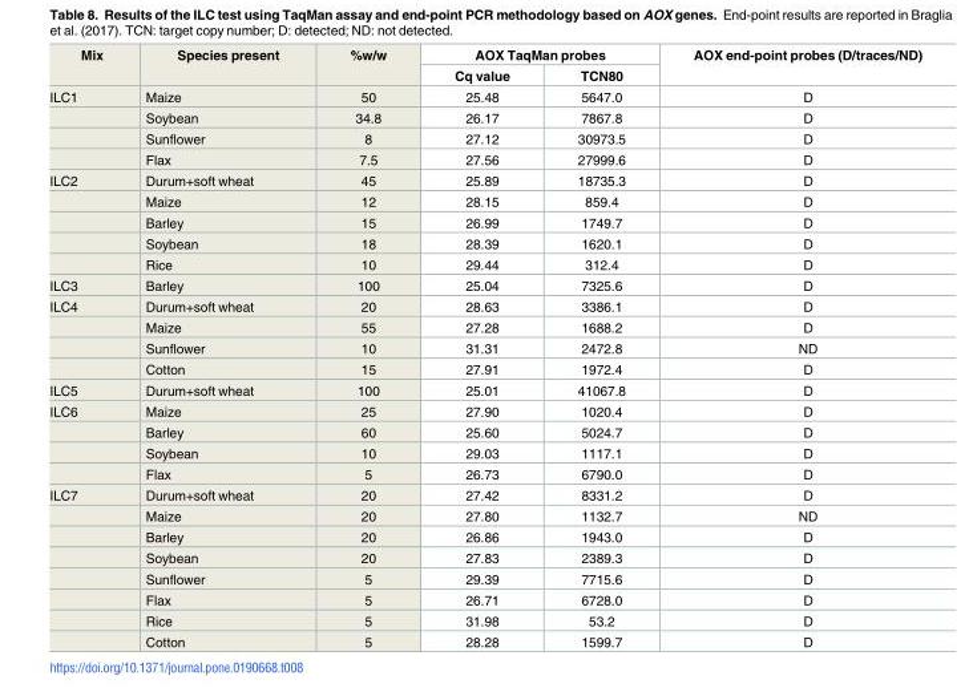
<table><thead><tr><td rowspan="2">Mix</td><td rowspan="2">Species present</td><td rowspan="2">%w/w</td><td colspan="2">AOX TaqMan probes</td><td rowspan="2">AOX end-point probes (D/traces/ND)</td></tr><tr><td>Cq value</td><td>TCN80</td></tr></thead><tbody><tr><td rowspan="4">ILC1</td><td>Maize</td><td>50</td><td>25.48</td><td>5647.0</td><td>D</td></tr><tr><td>Soybean</td><td>34.8</td><td>26.17</td><td>7867.8</td><td>D</td></tr><tr><td>Sunflower</td><td>8</td><td>27.12</td><td>30973.5</td><td>D</td></tr><tr><td>Flax</td><td>7.5</td><td>27.56</td><td>27999.6</td><td>D</td></tr><tr><td rowspan="5">ILC2</td><td>Durum+soft wheat</td><td>45</td><td>25.89</td><td>18735.3</td><td>D</td></tr><tr><td>Maize</td><td>12</td><td>28.15</td><td>859.4</td><td>D</td></tr><tr><td>Barley</td><td>15</td><td>26.99</td><td>1749.7</td><td>D</td></tr><tr><td>Soybean</td><td>18</td><td>28.39</td><td>1620.1</td><td>D</td></tr><tr><td>Rice</td><td>10</td><td>29.44</td><td>312.4</td><td>D</td></tr><tr><td>ILC3</td><td>Barley</td><td>100</td><td>25.04</td><td>7325.6</td><td>D</td></tr><tr><td rowspan="4">ILC4</td><td>Durum+soft wheat</td><td>20</td><td>28.63</td><td>3386.1</td><td>D</td></tr><tr><td>Maize</td><td>55</td><td>27.28</td><td>1688.2</td><td>D</td></tr><tr><td>Sunflower</td><td>10</td><td>31.31</td><td>2472.8</td><td>ND</td></tr><tr><td>Cotton</td><td>15</td><td>27.91</td><td>1972.4</td><td>D</td></tr><tr><td>ILC5</td><td>Durum+soft wheat</td><td>100</td><td>25.01</td><td>41067.8</td><td>D</td></tr><tr><td rowspan="4">ILC6</td><td>Maize</td><td>25</td><td>27.90</td><td>1020.4</td><td>D</td></tr><tr><td>Barley</td><td>60</td><td>25.60</td><td>5024.7</td><td>D</td></tr><tr><td>Soybean</td><td>10</td><td>29.03</td><td>1117.1</td><td>D</td></tr><tr><td>Flax</td><td>5</td><td>26.73</td><td>6790.0</td><td>D</td></tr><tr><td rowspan="8">ILC7</td><td>Durum+soft wheat</td><td>20</td><td>27.42</td><td>8331.2</td><td>D</td></tr><tr><td>Maize</td><td>20</td><td>27.80</td><td>1132.7</td><td>ND</td></tr><tr><td>Barley</td><td>20</td><td>26.86</td><td>1943.0</td><td>D</td></tr><tr><td>Soybean</td><td>20</td><td>27.83</td><td>2389.3</td><td>D</td></tr><tr><td>Sunflower</td><td>5</td><td>29.39</td><td>7715.6</td><td>D</td></tr><tr><td>Flax</td><td>5</td><td>26.71</td><td>6728.0</td><td>D</td></tr><tr><td>Rice</td><td>5</td><td>31.98</td><td>53.2</td><td>D</td></tr><tr><td>Cotton</td><td>5</td><td>28.28</td><td>1599.7</td><td>D</td></tr></tbody></table>